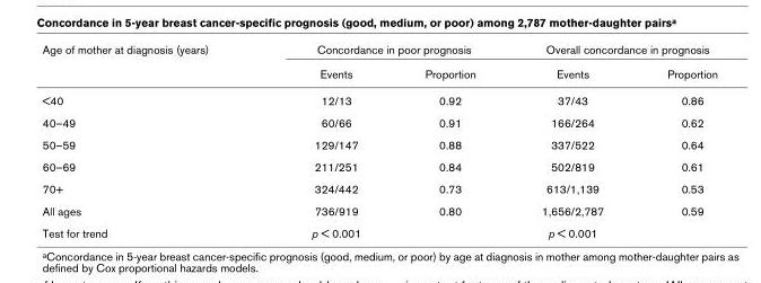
<table><thead><tr><td rowspan="2">Age of mother at diagnosis (years)</td><td colspan="2">Concordance in poor prognosis</td><td colspan="2">Overall concordance in prognosis</td></tr><tr><td>Events</td><td>Proportion</td><td>Events</td><td>Proportion</td></tr></thead><tbody><tr><td>&lt;40</td><td>12/13</td><td>0.92</td><td>37/43</td><td>0.86</td></tr><tr><td>40–49</td><td>60/66</td><td>0.91</td><td>166/264</td><td>0.62</td></tr><tr><td>50–59</td><td>129/147</td><td>0.88</td><td>337/522</td><td>0.64</td></tr><tr><td>60–69</td><td>211/251</td><td>0.84</td><td>502/819</td><td>0.61</td></tr><tr><td>70+</td><td>324/442</td><td>0.73</td><td>613/1,139</td><td>0.53</td></tr><tr><td>All ages</td><td>736/919</td><td>0.80</td><td>1,656/2,787</td><td>0.59</td></tr><tr><td>Test for trend</td><td>p &lt; 0.001</td><td></td><td>p &lt; 0.001</td><td></td></tr></tbody></table>